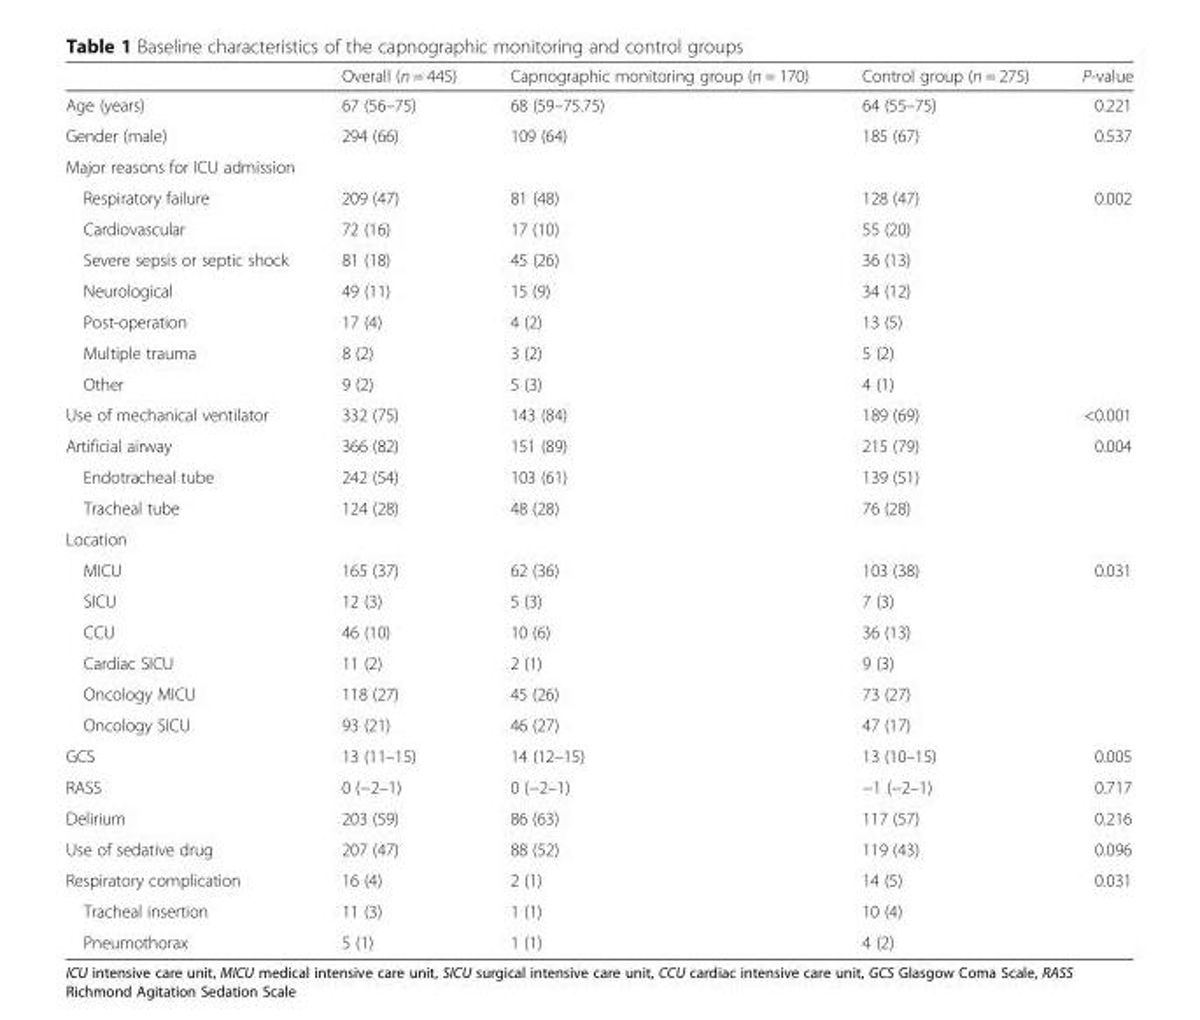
<table><thead><tr><td></td><td>Overall (n = 445)</td><td>Capnographic monitoring group (n = 170)</td><td>Control group (n = 275)</td><td>P-value</td></tr></thead><tbody><tr><td>Age (years)</td><td>67 (56–75)</td><td>68 (59–75.75)</td><td>64 (55–75)</td><td>0.221</td></tr><tr><td>Gender (male)</td><td>294 (66)</td><td>109 (64)</td><td>185 (67)</td><td>0.537</td></tr><tr><td colspan="5">Major reasons for ICU admission</td></tr><tr><td>Respiratory failure</td><td>209 (47)</td><td>81 (48)</td><td>128 (47)</td><td rowspan="7">0.002</td></tr><tr><td>Cardiovascular</td><td>72 (16)</td><td>17 (10)</td><td>55 (20)</td></tr><tr><td>Severe sepsis or septic shock</td><td>81 (18)</td><td>45 (26)</td><td>36 (13)</td></tr><tr><td>Neurological</td><td>49 (11)</td><td>15 (9)</td><td>34 (12)</td></tr><tr><td>Post-operation</td><td>17 (4)</td><td>4 (2)</td><td>13 (5)</td></tr><tr><td>Multiple trauma</td><td>8 (2)</td><td>3 (2)</td><td>5 (2)</td></tr><tr><td>Other</td><td>9 (2)</td><td>5 (3)</td><td>4 (1)</td></tr><tr><td>Use of mechanical ventilator</td><td>332 (75)</td><td>143 (84)</td><td>189 (69)</td><td>&lt;0.001</td></tr><tr><td>Artificial airway</td><td>366 (82)</td><td>151 (89)</td><td>215 (79)</td><td>0.004</td></tr><tr><td>Endotracheal tube</td><td>242 (54)</td><td>103 (61)</td><td>139 (51)</td><td rowspan="2"></td></tr><tr><td>Tracheal tube</td><td>124 (28)</td><td>48 (28)</td><td>76 (28)</td></tr><tr><td colspan="5">Location</td></tr><tr><td>MICU</td><td>165 (37)</td><td>62 (36)</td><td>103 (38)</td><td rowspan="6">0.031</td></tr><tr><td>SICU</td><td>12 (3)</td><td>5 (3)</td><td>7 (3)</td></tr><tr><td>CCU</td><td>46 (10)</td><td>10 (6)</td><td>36 (13)</td></tr><tr><td>Cardiac SICU</td><td>11 (2)</td><td>2 (1)</td><td>9 (3)</td></tr><tr><td>Oncology MICU</td><td>118 (27)</td><td>45 (26)</td><td>73 (27)</td></tr><tr><td>Oncology SICU</td><td>93 (21)</td><td>46 (27)</td><td>47 (17)</td></tr><tr><td>GCS</td><td>13 (11–15)</td><td>14 (12–15)</td><td>13 (10–15)</td><td>0.005</td></tr><tr><td>RASS</td><td>0 (−2–1)</td><td>0 (−2–1)</td><td>−1 (−2–1)</td><td>0.717</td></tr><tr><td>Delirium</td><td>203 (59)</td><td>86 (63)</td><td>117 (57)</td><td>0.216</td></tr><tr><td>Use of sedative drug</td><td>207 (47)</td><td>88 (52)</td><td>119 (43)</td><td>0.096</td></tr><tr><td>Respiratory complication</td><td>16 (4)</td><td>2 (1)</td><td>14 (5)</td><td rowspan="3">0.031</td></tr><tr><td>Tracheal insertion</td><td>11 (3)</td><td>1 (1)</td><td>10 (4)</td></tr><tr><td>Pneumothorax</td><td>5 (1)</td><td>1 (1)</td><td>4 (2)</td></tr></tbody></table>